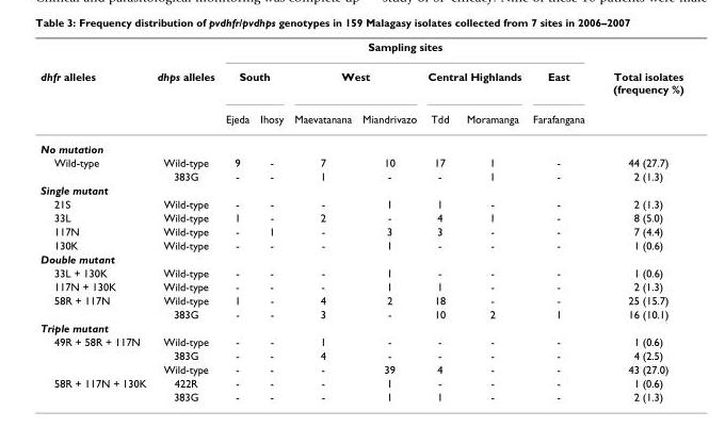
<table><thead><tr><td rowspan="3">dhfr alleles</td><td rowspan="3">dhps alleles</td><td colspan="7">Sampling sites</td><td rowspan="3">Total isolates (frequency %)</td></tr><tr><td colspan="2">South</td><td colspan="2">West</td><td colspan="2">Central Highlands</td><td rowspan="2">East Farafangana</td></tr><tr><td>Ejeda</td><td>Ihosy</td><td>Maevatanana</td><td>Miandrivazo</td><td>Tdd</td><td>Moramanga</td></tr></thead><tbody><tr><td colspan="10">No mutation</td></tr><tr><td rowspan="2">Wild-type</td><td>Wild-type</td><td>9</td><td>-</td><td>7</td><td>10</td><td>17</td><td>1</td><td>-</td><td>44 (27.7)</td></tr><tr><td>383G</td><td>-</td><td>-</td><td>1</td><td>-</td><td>-</td><td>1</td><td>-</td><td>2 (1.3)</td></tr><tr><td colspan="10">Single mutant</td></tr><tr><td>21S</td><td>Wild-type</td><td>-</td><td>-</td><td>-</td><td>1</td><td>1</td><td>-</td><td>-</td><td>2 (1.3)</td></tr><tr><td>33L</td><td>Wild-type</td><td>1</td><td>-</td><td>2</td><td>-</td><td>4</td><td>1</td><td>-</td><td>8 (5.0)</td></tr><tr><td>117N</td><td>Wild-type</td><td>-</td><td>1</td><td>-</td><td>3</td><td>3</td><td>-</td><td>-</td><td>7 (4.4)</td></tr><tr><td>130K</td><td>Wild-type</td><td>-</td><td>-</td><td>-</td><td>1</td><td>-</td><td>-</td><td>-</td><td>1 (0.6)</td></tr><tr><td colspan="10">Double mutant</td></tr><tr><td>33L + 130K</td><td>Wild-type</td><td>-</td><td>-</td><td>-</td><td>1</td><td>-</td><td>-</td><td>-</td><td>1 (0.6)</td></tr><tr><td>117N + 130K</td><td>Wild-type</td><td>-</td><td>-</td><td>-</td><td>1</td><td>1</td><td>-</td><td>-</td><td>2 (1.3)</td></tr><tr><td rowspan="2">58R + 117N</td><td>Wild-type</td><td>1</td><td>-</td><td>4</td><td>2</td><td>18</td><td>-</td><td>-</td><td>25 (15.7)</td></tr><tr><td>383G</td><td>-</td><td>-</td><td>3</td><td>-</td><td>10</td><td>2</td><td>1</td><td>16 (10.1)</td></tr><tr><td colspan="10">Triple mutant</td></tr><tr><td rowspan="3">49R + 58R + 117N</td><td>Wild-type</td><td>-</td><td>-</td><td>1</td><td>-</td><td>-</td><td>-</td><td>-</td><td>1 (0.6)</td></tr><tr><td>383G</td><td>-</td><td>-</td><td>4</td><td>-</td><td>-</td><td>-</td><td>-</td><td>4 (2.5)</td></tr><tr><td>Wild-type</td><td>-</td><td>-</td><td>-</td><td>39</td><td>4</td><td>-</td><td>-</td><td>43 (27.0)</td></tr><tr><td rowspan="2">58R + 117N + 130K</td><td>422R</td><td>-</td><td>-</td><td>-</td><td>1</td><td>-</td><td>-</td><td>-</td><td>1 (0.6)</td></tr><tr><td>383G</td><td>-</td><td>-</td><td>-</td><td>1</td><td>1</td><td>-</td><td>-</td><td>2 (1.3)</td></tr></tbody></table>